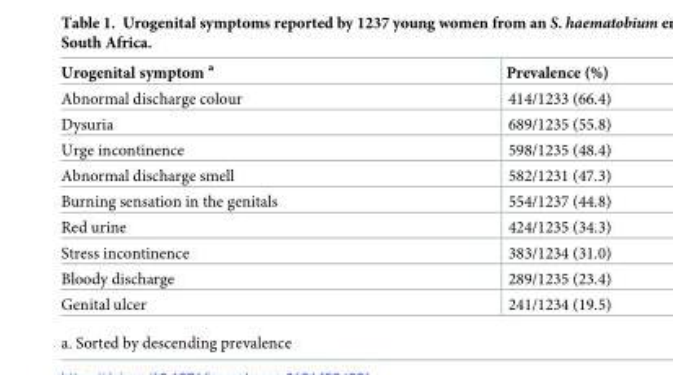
<table><thead><tr><td>Urogenital symptom <sup>a</sup></td><td>Prevalence (%)</td></tr></thead><tbody><tr><td>Abnormal discharge colour</td><td>414/1233 (66.4)</td></tr><tr><td>Dysuria</td><td>689/1235 (55.8)</td></tr><tr><td>Urge incontinence</td><td>598/1235 (48.4)</td></tr><tr><td>Abnormal discharge smell</td><td>582/1231 (47.3)</td></tr><tr><td>Burning sensation in the genitals</td><td>554/1237 (44.8)</td></tr><tr><td>Red urine</td><td>424/1235 (34.3)</td></tr><tr><td>Stress incontinence</td><td>383/1234 (31.0)</td></tr><tr><td>Bloody discharge</td><td>289/1235 (23.4)</td></tr><tr><td>Genital ulcer</td><td>241/1234 (19.5)</td></tr></tbody></table>